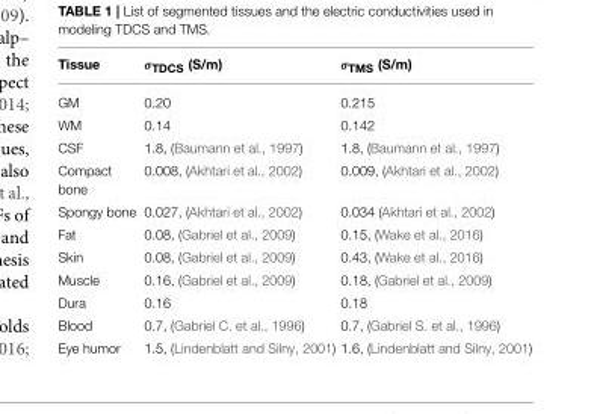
<table><thead><tr><td>Tissue</td><td>σ<sub>TDCS</sub> (S/m)</td><td>σ<sub>TMS</sub> (S/m)</td></tr></thead><tbody><tr><td>GM</td><td>0.20</td><td>0.215</td></tr><tr><td>WM</td><td>0.14</td><td>0.142</td></tr><tr><td>CSF</td><td>1.8, (Baumann et al., 1997)</td><td>1.8, (Baumann et al., 1997)</td></tr><tr><td>Compact bone</td><td>0.008, (Akhtari et al., 2002)</td><td>0.009, (Akhtari et al., 2002)</td></tr><tr><td>Spongy bone</td><td>0.027, (Akhtari et al., 2002)</td><td>0.034 (Akhtari et al., 2002)</td></tr><tr><td>Fat</td><td>0.08, (Gabriel et al., 2009)</td><td>0.15, (Wake et al., 2016)</td></tr><tr><td>Skin</td><td>0.08, (Gabriel et al., 2009)</td><td>0.43, (Wake et al., 2016)</td></tr><tr><td>Muscle</td><td>0.16, (Gabriel et al., 2009)</td><td>0.18, (Gabriel et al., 2009)</td></tr><tr><td>Dura</td><td>0.16</td><td>0.18</td></tr><tr><td>Blood</td><td>0.7, (Gabriel C. et al., 1996)</td><td>0.7, (Gabriel S. et al., 1996)</td></tr><tr><td>Eye humor</td><td>1.5, (Lindenblatt and Silny, 2001)</td><td>1.6, (Lindenblatt and Silny, 2001)</td></tr></tbody></table>